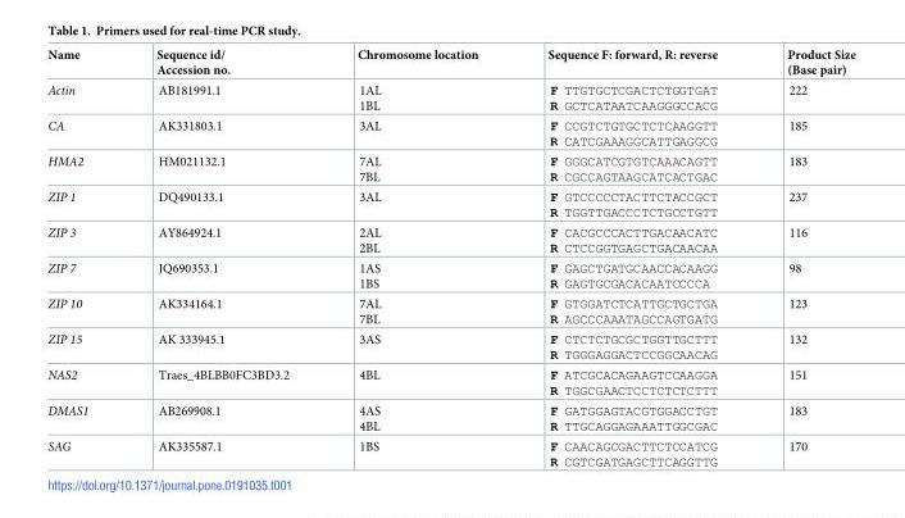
<table><thead><tr><td>Name</td><td>Sequence id/ Accession no.</td><td>Chromosome location</td><td>Sequence F: forward, R: reverse</td><td>Product Size (Base pair)</td></tr></thead><tbody><tr><td>Actin</td><td>AB181991.1</td><td>1AL 1BL</td><td>F TTGTGCTCGACTCTGGTGAT R GCTCATAATCAAGGGCCACG</td><td>222</td></tr><tr><td>CA</td><td>AK331803.1</td><td>3AL</td><td>F CCGTCTGTGCTCTCAAGGTT R CATCGAAAGGCATTGAGGCG</td><td>185</td></tr><tr><td>HMA2</td><td>HM021132.1</td><td>7AL 7BL</td><td>F GGGCATCGTGTCAAACAGTT R CGCCAGTAAGCATCACTGAC</td><td>183</td></tr><tr><td>ZIP 1</td><td>DQ490133.1</td><td>3AL</td><td>F GTCCCCCTACTTCTACCGCT R TGGTTGACCCTCTGCCTGTT</td><td>237</td></tr><tr><td>ZIP 3</td><td>AY864924.1</td><td>2AL 2BL</td><td>F CACGCCCACTTGACAACATC R CTCCGGTGAGCTGACAACAA</td><td>116</td></tr><tr><td>ZIP 7</td><td>JQ690353.1</td><td>1AS 1BS</td><td>F GAGCTGATGCAACCACAAGG R GAGTGCGACACAATCCCCA</td><td>98</td></tr><tr><td>ZIP 10</td><td>AK334164.1</td><td>7AL 7BL</td><td>F GTGGATCTCATTGCTGCTGA R AGCCCAAATAGCCAGTGATG</td><td>123</td></tr><tr><td>ZIP 15</td><td>AK 333945.1</td><td>3AS</td><td>F CTCTCTGCGCTGGTTGCTTT R TGGGAGGACTCCGGCAACAG</td><td>132</td></tr><tr><td>NAS2</td><td>Traes_4BLBB0FC3BD3.2</td><td>4BL</td><td>F ATCGCACAGAAGTCCAAGGA R TGGCGAACTCCTCTCTCTTT</td><td>151</td></tr><tr><td>DMAS1</td><td>AB269908.1</td><td>4AS 4BL</td><td>F GATGGAGTACGTGGACCTGT R TTGCAGGAGAAATTGGCGAC</td><td>183</td></tr><tr><td>SAG</td><td>AK335587.1</td><td>1BS</td><td>F CAACAGCGACTTCTCCATCG R CGTCGATGAGCTTCAGGTTG</td><td>170</td></tr></tbody></table>